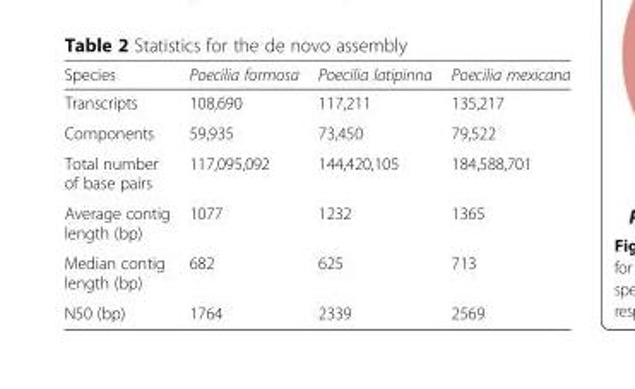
<table><thead><tr><td>Species</td><td>Poecilia formosa</td><td>Poecilia latipinna</td><td>Poecilia mexicana</td></tr></thead><tbody><tr><td>Transcripts</td><td>108,690</td><td>117,211</td><td>135,217</td></tr><tr><td>Components</td><td>59,935</td><td>73,450</td><td>79,522</td></tr><tr><td>Total number of base pairs</td><td>117,095,092</td><td>144,420,105</td><td>184,588,701</td></tr><tr><td>Average contig length (bp)</td><td>1077</td><td>1232</td><td>1365</td></tr><tr><td>Median contig length (bp)</td><td>682</td><td>625</td><td>713</td></tr><tr><td>N50 (bp)</td><td>1764</td><td>2339</td><td>2569</td></tr></tbody></table>